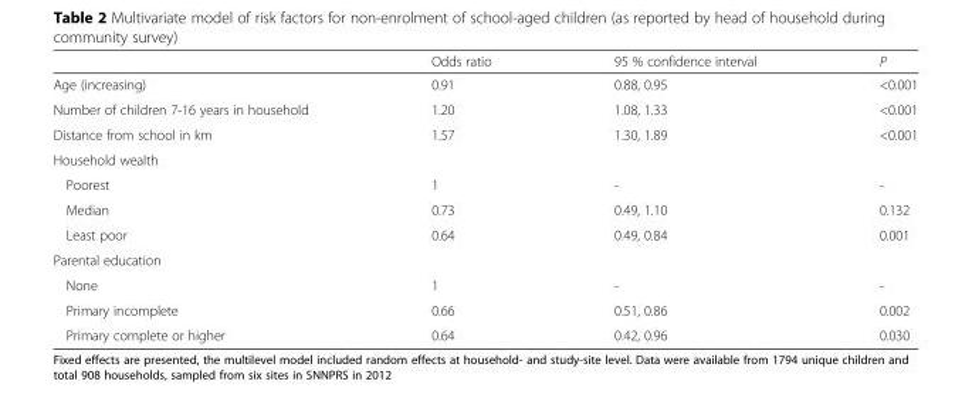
<table><thead><tr><td></td><td>Odds ratio</td><td>95 % confidence interval</td><td>P</td></tr></thead><tbody><tr><td>Age (increasing)</td><td>0.91</td><td>0.88, 0.95</td><td>&lt;0.001</td></tr><tr><td>Number of children 7-16 years in household</td><td>1.20</td><td>1.08, 1.33</td><td>&lt;0.001</td></tr><tr><td>Distance from school in km</td><td>1.57</td><td>1.30, 1.89</td><td>&lt;0.001</td></tr><tr><td colspan="4">Household wealth</td></tr><tr><td>Poorest</td><td>1</td><td>-</td><td>-</td></tr><tr><td>Median</td><td>0.73</td><td>0.49, 1.10</td><td>0.132</td></tr><tr><td>Least poor</td><td>0.64</td><td>0.49, 0.84</td><td>0.001</td></tr><tr><td colspan="4">Parental education</td></tr><tr><td>None</td><td>1</td><td>-</td><td>-</td></tr><tr><td>Primary incomplete</td><td>0.66</td><td>0.51, 0.86</td><td>0.002</td></tr><tr><td>Primary complete or higher</td><td>0.64</td><td>0.42, 0.96</td><td>0.030</td></tr></tbody></table>